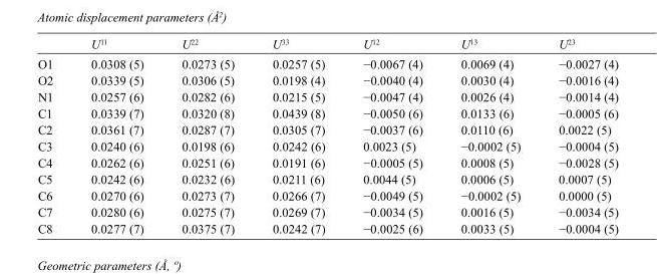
<table><thead><tr><td></td><td>U<sup>11</sup></td><td>U<sup>22</sup></td><td>U<sup>33</sup></td><td>U<sup>12</sup></td><td>U<sup>13</sup></td><td>U<sup>23</sup></td></tr></thead><tbody><tr><td>O1</td><td>0.0308 (5)</td><td>0.0273 (5)</td><td>0.0257 (5)</td><td>−0.0067 (4)</td><td>0.0069 (4)</td><td>−0.0027 (4)</td></tr><tr><td>O2</td><td>0.0339 (5)</td><td>0.0306 (5)</td><td>0.0198 (4)</td><td>−0.0040 (4)</td><td>0.0030 (4)</td><td>−0.0016 (4)</td></tr><tr><td>N1</td><td>0.0257 (6)</td><td>0.0282 (6)</td><td>0.0215 (5)</td><td>−0.0047 (4)</td><td>0.0026 (4)</td><td>−0.0014 (4)</td></tr><tr><td>C1</td><td>0.0339 (7)</td><td>0.0320 (8)</td><td>0.0439 (8)</td><td>−0.0050 (6)</td><td>0.0133 (6)</td><td>−0.0005 (6)</td></tr><tr><td>C2</td><td>0.0361 (7)</td><td>0.0287 (7)</td><td>0.0305 (7)</td><td>−0.0037 (6)</td><td>0.0110 (6)</td><td>0.0022 (5)</td></tr><tr><td>C3</td><td>0.0240 (6)</td><td>0.0198 (6)</td><td>0.0242 (6)</td><td>0.0023 (5)</td><td>−0.0002 (5)</td><td>−0.0004 (5)</td></tr><tr><td>C4</td><td>0.0262 (6)</td><td>0.0251 (6)</td><td>0.0191 (6)</td><td>−0.0005 (5)</td><td>0.0008 (5)</td><td>−0.0028 (5)</td></tr><tr><td>C5</td><td>0.0242 (6)</td><td>0.0232 (6)</td><td>0.0211 (6)</td><td>0.0044 (5)</td><td>0.0006 (5)</td><td>0.0007 (5)</td></tr><tr><td>C6</td><td>0.0270 (6)</td><td>0.0273 (7)</td><td>0.0266 (7)</td><td>−0.0049 (5)</td><td>−0.0002 (5)</td><td>0.0000 (5)</td></tr><tr><td>C7</td><td>0.0280 (6)</td><td>0.0275 (7)</td><td>0.0269 (7)</td><td>−0.0034 (5)</td><td>0.0016 (5)</td><td>−0.0034 (5)</td></tr><tr><td>C8</td><td>0.0277 (7)</td><td>0.0375 (7)</td><td>0.0242 (7)</td><td>−0.0025 (6)</td><td>0.0033 (5)</td><td>−0.0004 (5)</td></tr></tbody></table>